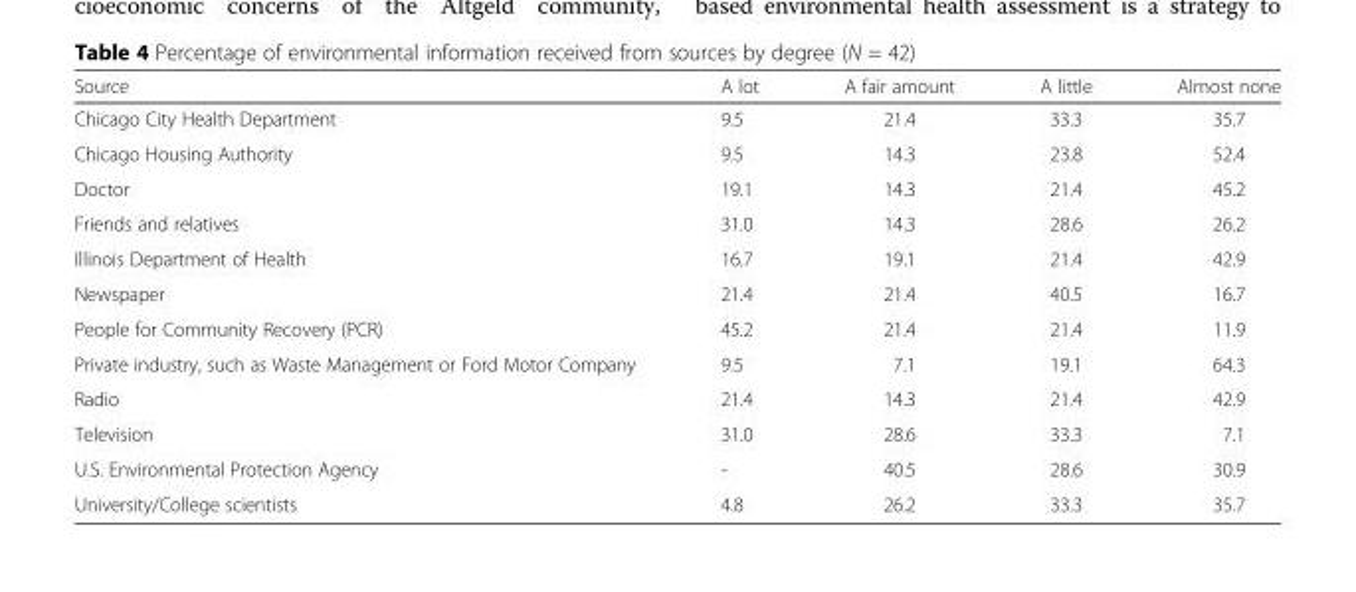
<table><thead><tr><td>Source</td><td>A lot</td><td>A fair amount</td><td>A little</td><td>Almost none</td></tr></thead><tbody><tr><td>Chicago City Health Department</td><td>9.5</td><td>21.4</td><td>33.3</td><td>35.7</td></tr><tr><td>Chicago Housing Authority</td><td>9.5</td><td>14.3</td><td>23.8</td><td>52.4</td></tr><tr><td>Doctor</td><td>19.1</td><td>14.3</td><td>21.4</td><td>45.2</td></tr><tr><td>Friends and relatives</td><td>31.0</td><td>14.3</td><td>28.6</td><td>26.2</td></tr><tr><td>Illinois Department of Health</td><td>16.7</td><td>19.1</td><td>21.4</td><td>42.9</td></tr><tr><td>Newspaper</td><td>21.4</td><td>21.4</td><td>40.5</td><td>16.7</td></tr><tr><td>People for Community Recovery (PCR)</td><td>45.2</td><td>21.4</td><td>21.4</td><td>11.9</td></tr><tr><td>Private industry, such as Waste Management or Ford Motor Company</td><td>9.5</td><td>7.1</td><td>19.1</td><td>64.3</td></tr><tr><td>Radio</td><td>21.4</td><td>14.3</td><td>21.4</td><td>42.9</td></tr><tr><td>Television</td><td>31.0</td><td>28.6</td><td>33.3</td><td>7.1</td></tr><tr><td>U.S. Environmental Protection Agency</td><td>-</td><td>40.5</td><td>28.6</td><td>30.9</td></tr><tr><td>University/College scientists</td><td>4.8</td><td>26.2</td><td>33.3</td><td>35.7</td></tr></tbody></table>